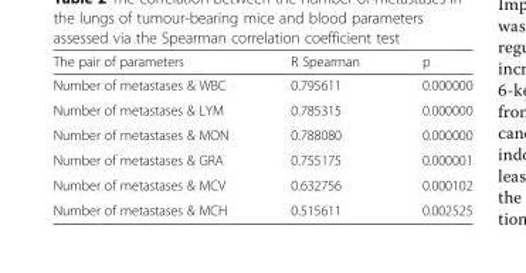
<table><thead><tr><td>The pair of parameters</td><td>R Spearman</td><td>p</td></tr></thead><tbody><tr><td>Number of metastases &amp; WBC</td><td>0.795611</td><td>0.000000</td></tr><tr><td>Number of metastases &amp; LYM</td><td>0.785315</td><td>0.000000</td></tr><tr><td>Number of metastases &amp; MON</td><td>0.788080</td><td>0.000000</td></tr><tr><td>Number of metastases &amp; GRA</td><td>0.755175</td><td>0.000001</td></tr><tr><td>Number of metastases &amp; MCV</td><td>0.632756</td><td>0.000102</td></tr><tr><td>Number of metastases &amp; MCH</td><td>0.515611</td><td>0.002525</td></tr></tbody></table>